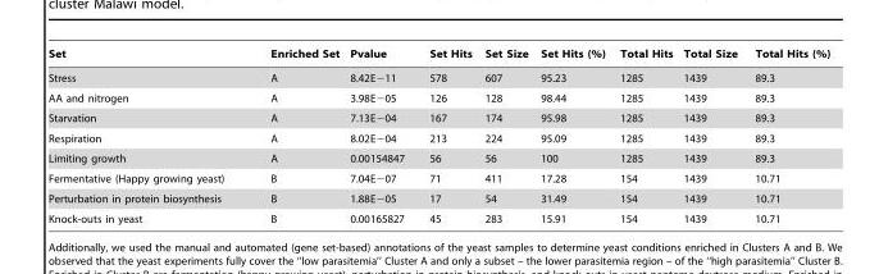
<table><thead><tr><td>Set</td><td>Enriched Set</td><td>Pvalue</td><td>Set Hits</td><td>Set Size</td><td>Set Hits (%)</td><td>Total Hits</td><td>Total Size</td><td>Total Hits (%)</td></tr></thead><tbody><tr><td>Stress</td><td>A</td><td>8.42E−11</td><td>578</td><td>607</td><td>95.23</td><td>1285</td><td>1439</td><td>89.3</td></tr><tr><td>AA and nitrogen</td><td>A</td><td>3.98E−05</td><td>126</td><td>128</td><td>98.44</td><td>1285</td><td>1439</td><td>89.3</td></tr><tr><td>Starvation</td><td>A</td><td>7.13E−04</td><td>167</td><td>174</td><td>95.98</td><td>1285</td><td>1439</td><td>89.3</td></tr><tr><td>Respiration</td><td>A</td><td>8.02E−04</td><td>213</td><td>224</td><td>95.09</td><td>1285</td><td>1439</td><td>89.3</td></tr><tr><td>Limiting growth</td><td>A</td><td>0.00154847</td><td>56</td><td>56</td><td>100</td><td>1285</td><td>1439</td><td>89.3</td></tr><tr><td>Fermentative (Happy growing yeast)</td><td>B</td><td>7.04E−07</td><td>71</td><td>411</td><td>17.28</td><td>154</td><td>1439</td><td>10.71</td></tr><tr><td>Perturbation in protein biosynthesis</td><td>B</td><td>1.88E−05</td><td>17</td><td>54</td><td>31.49</td><td>154</td><td>1439</td><td>10.71</td></tr><tr><td>Knock-outs in yeast</td><td>B</td><td>0.00165827</td><td>45</td><td>283</td><td>15.91</td><td>154</td><td>1439</td><td>10.71</td></tr></tbody></table>